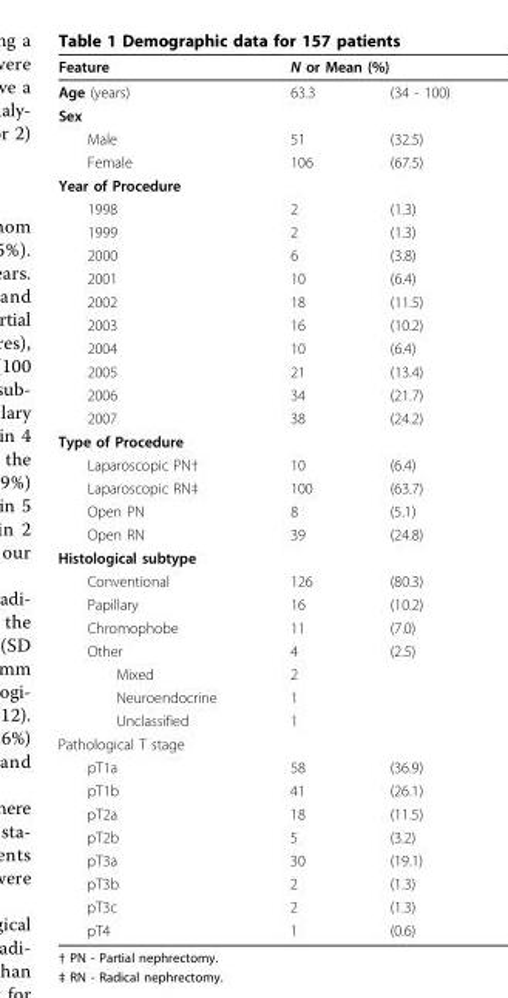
<table><thead><tr><td rowspan="2">Feature Age (years)</td><td colspan="2">N or Mean (%)</td></tr><tr><td>63.3</td><td>(34 - 100)</td></tr></thead><tbody><tr><td colspan="3">Sex</td></tr><tr><td>Male</td><td>51</td><td>(32.5)</td></tr><tr><td>Female</td><td>106</td><td>(67.5)</td></tr><tr><td colspan="3">Year of Procedure</td></tr><tr><td>1998</td><td>2</td><td>(1.3)</td></tr><tr><td>1999</td><td>2</td><td>(1.3)</td></tr><tr><td>2000</td><td>6</td><td>(3.8)</td></tr><tr><td>2001</td><td>10</td><td>(6.4)</td></tr><tr><td>2002</td><td>18</td><td>(11.5)</td></tr><tr><td>2003</td><td>16</td><td>(10.2)</td></tr><tr><td>2004</td><td>10</td><td>(6.4)</td></tr><tr><td>2005</td><td>21</td><td>(13.4)</td></tr><tr><td>2006</td><td>34</td><td>(21.7)</td></tr><tr><td>2007</td><td>38</td><td>(24.2)</td></tr><tr><td colspan="3">Type of Procedure</td></tr><tr><td>Laparoscopic PN†</td><td>10</td><td>(6.4)</td></tr><tr><td>Laparoscopic RN‡</td><td>100</td><td>(63.7)</td></tr><tr><td>Open PN</td><td>8</td><td>(5.1)</td></tr><tr><td>Open RN</td><td>39</td><td>(24.8)</td></tr><tr><td colspan="3">Histological subtype</td></tr><tr><td>Conventional</td><td>126</td><td>(80.3)</td></tr><tr><td>Papillary</td><td>16</td><td>(10.2)</td></tr><tr><td>Chromophobe</td><td>11</td><td>(7.0)</td></tr><tr><td>Other</td><td>4</td><td>(2.5)</td></tr><tr><td>Mixed</td><td>2</td><td></td></tr><tr><td>Neuroendocrine</td><td>1</td><td></td></tr><tr><td>Unclassified</td><td>1</td><td></td></tr><tr><td colspan="3">Pathological T stage</td></tr><tr><td>pT1a</td><td>58</td><td>(36.9)</td></tr><tr><td>pT1b</td><td>41</td><td>(26.1)</td></tr><tr><td>pT2a</td><td>18</td><td>(11.5)</td></tr><tr><td>pT2b</td><td>5</td><td>(3.2)</td></tr><tr><td>pT3a</td><td>30</td><td>(19.1)</td></tr><tr><td>pT3b</td><td>2</td><td>(1.3)</td></tr><tr><td>pT3c</td><td>2</td><td>(1.3)</td></tr><tr><td>pT4</td><td>1</td><td>(0.6)</td></tr></tbody></table>